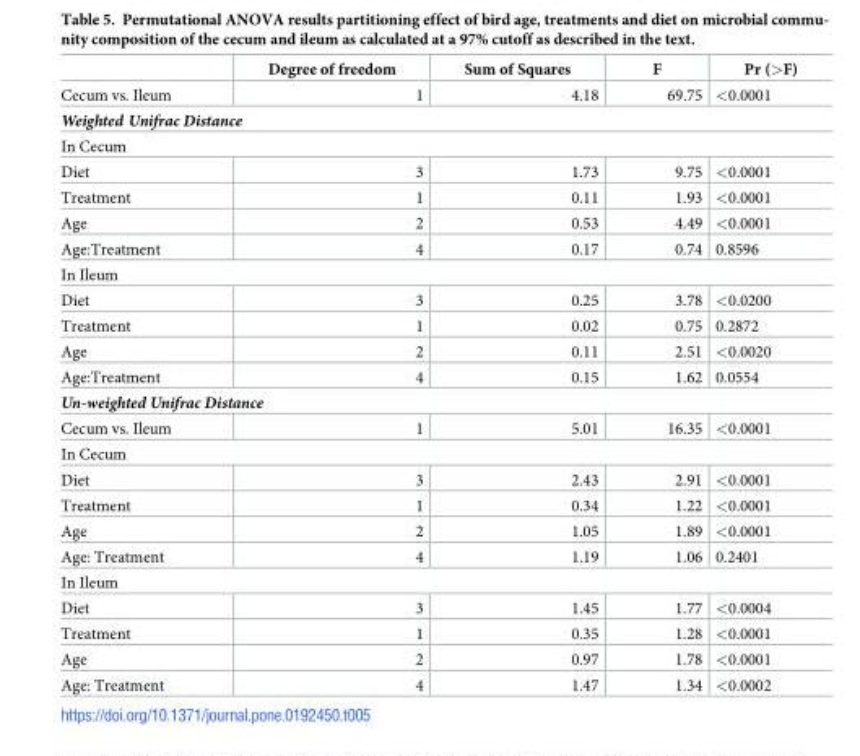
<table><thead><tr><td></td><td>Degree of freedom</td><td>Sum of Squares</td><td>F</td><td>Pr (&gt;F)</td></tr></thead><tbody><tr><td>Cecum vs. Ileum</td><td>1</td><td>4.18</td><td>69.75</td><td>&lt;0.0001</td></tr><tr><td colspan="5">Weighted Unifrac Distance</td></tr><tr><td colspan="5">In Cecum</td></tr><tr><td>Diet</td><td>3</td><td>1.73</td><td>9.75</td><td>&lt;0.0001</td></tr><tr><td>Treatment</td><td>1</td><td>0.11</td><td>1.93</td><td>&lt;0.0001</td></tr><tr><td>Age</td><td>2</td><td>0.53</td><td>4.49</td><td>&lt;0.0001</td></tr><tr><td>Age:Treatment</td><td>4</td><td>0.17</td><td>0.74</td><td>0.8596</td></tr><tr><td colspan="5">In Ileum</td></tr><tr><td>Diet</td><td>3</td><td>0.25</td><td>3.78</td><td>&lt;0.0200</td></tr><tr><td>Treatment</td><td>1</td><td>0.02</td><td>0.75</td><td>0.2872</td></tr><tr><td>Age</td><td>2</td><td>0.11</td><td>2.51</td><td>&lt;0.0020</td></tr><tr><td>Age:Treatment</td><td>4</td><td>0.15</td><td>1.62</td><td>0.0554</td></tr><tr><td colspan="5">Un-weighted Unifrac Distance</td></tr><tr><td>Cecum vs. Ileum</td><td>1</td><td>5.01</td><td>16.35</td><td>&lt;0.0001</td></tr><tr><td colspan="5">In Cecum</td></tr><tr><td>Diet</td><td>3</td><td>2.43</td><td>2.91</td><td>&lt;0.0001</td></tr><tr><td>Treatment</td><td>1</td><td>0.34</td><td>1.22</td><td>&lt;0.0001</td></tr><tr><td>Age</td><td>2</td><td>1.05</td><td>1.89</td><td>&lt;0.0001</td></tr><tr><td>Age: Treatment</td><td>4</td><td>1.19</td><td>1.06</td><td>0.2401</td></tr><tr><td colspan="5">In Ileum</td></tr><tr><td>Diet</td><td>3</td><td>1.45</td><td>1.77</td><td>&lt;0.0004</td></tr><tr><td>Treatment</td><td>1</td><td>0.35</td><td>1.28</td><td>&lt;0.0001</td></tr><tr><td>Age</td><td>2</td><td>0.97</td><td>1.78</td><td>&lt;0.0001</td></tr><tr><td>Age: Treatment</td><td>4</td><td>1.47</td><td>1.34</td><td>&lt;0.0002</td></tr></tbody></table>